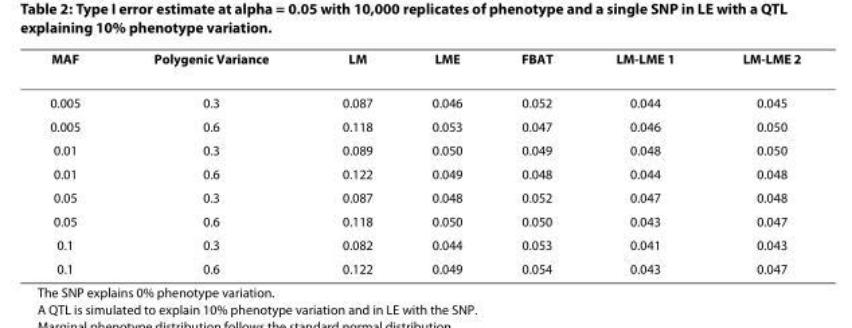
<table><thead><tr><td>MAF</td><td>Polygenic Variance</td><td>LM</td><td>LME</td><td>FBAT</td><td>LM-LME 1</td><td>LM-LME 2</td></tr></thead><tbody><tr><td>0.005</td><td>0.3</td><td>0.087</td><td>0.046</td><td>0.052</td><td>0.044</td><td>0.045</td></tr><tr><td>0.005</td><td>0.6</td><td>0.118</td><td>0.053</td><td>0.047</td><td>0.046</td><td>0.050</td></tr><tr><td>0.01</td><td>0.3</td><td>0.089</td><td>0.050</td><td>0.049</td><td>0.048</td><td>0.050</td></tr><tr><td>0.01</td><td>0.6</td><td>0.122</td><td>0.049</td><td>0.048</td><td>0.044</td><td>0.048</td></tr><tr><td>0.05</td><td>0.3</td><td>0.087</td><td>0.048</td><td>0.052</td><td>0.047</td><td>0.048</td></tr><tr><td>0.05</td><td>0.6</td><td>0.118</td><td>0.050</td><td>0.050</td><td>0.043</td><td>0.047</td></tr><tr><td>0.1</td><td>0.3</td><td>0.082</td><td>0.044</td><td>0.053</td><td>0.041</td><td>0.043</td></tr><tr><td>0.1</td><td>0.6</td><td>0.122</td><td>0.049</td><td>0.054</td><td>0.043</td><td>0.047</td></tr></tbody></table>